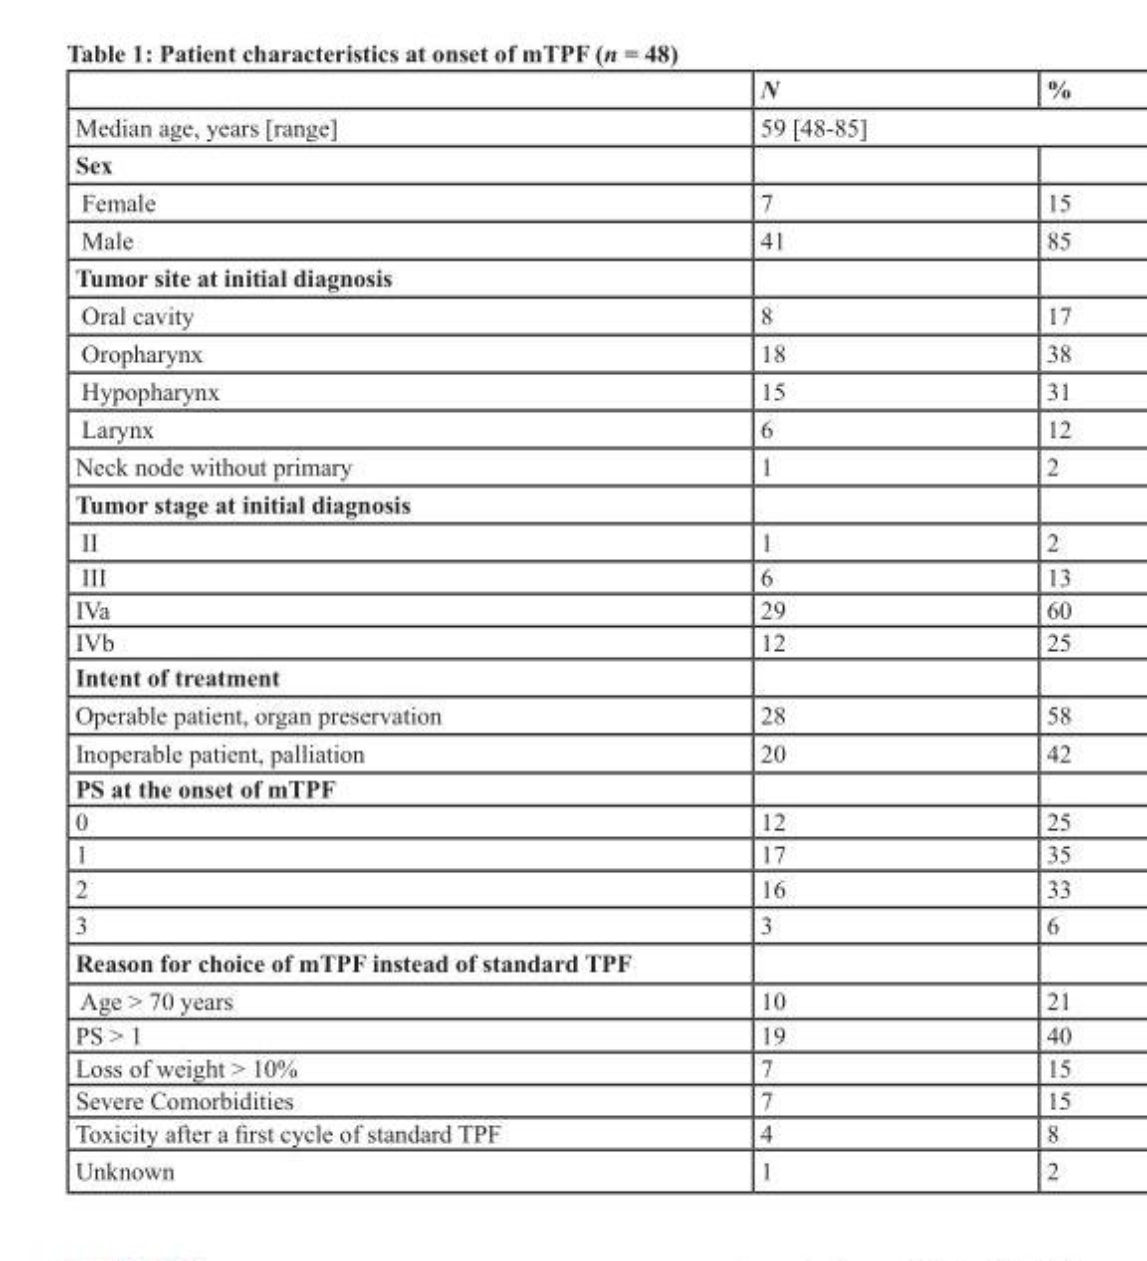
<table><thead><tr><td></td><td>N</td><td>%</td></tr></thead><tbody><tr><td>Median age, years [range]</td><td colspan="2">59 [48-85]</td></tr><tr><td colspan="3">Sex</td></tr><tr><td>Female</td><td>7</td><td>15</td></tr><tr><td>Male</td><td>41</td><td>85</td></tr><tr><td colspan="3">Tumor site at initial diagnosis</td></tr><tr><td>Oral cavity</td><td>8</td><td>17</td></tr><tr><td>Oropharynx</td><td>18</td><td>38</td></tr><tr><td>Hypopharynx</td><td>15</td><td>31</td></tr><tr><td>Larynx</td><td>6</td><td>12</td></tr><tr><td>Neck node without primary</td><td>1</td><td>2</td></tr><tr><td colspan="3">Tumor stage at initial diagnosis</td></tr><tr><td>II</td><td>1</td><td>2</td></tr><tr><td>III</td><td>6</td><td>13</td></tr><tr><td>IVa</td><td>29</td><td>60</td></tr><tr><td>IVb</td><td>12</td><td>25</td></tr><tr><td colspan="3">Intent of treatment</td></tr><tr><td>Operable patient, organ preservation</td><td>28</td><td>58</td></tr><tr><td>Inoperable patient, palliation</td><td>20</td><td>42</td></tr><tr><td colspan="3">PS at the onset of mTPF</td></tr><tr><td>0</td><td>12</td><td>25</td></tr><tr><td>1</td><td>17</td><td>35</td></tr><tr><td>2</td><td>16</td><td>33</td></tr><tr><td>3</td><td>3</td><td>6</td></tr><tr><td colspan="3">Reason for choice of mTPF instead of standard TPF</td></tr><tr><td>Age &gt; 70 years</td><td>10</td><td>21</td></tr><tr><td>PS &gt; 1</td><td>19</td><td>40</td></tr><tr><td>Loss of weight &gt; 10%</td><td>7</td><td>15</td></tr><tr><td>Severe Comorbidities</td><td>7</td><td>15</td></tr><tr><td>Toxicity after a first cycle of standard TPF</td><td>4</td><td>8</td></tr><tr><td>Unknown</td><td>1</td><td>2</td></tr></tbody></table>